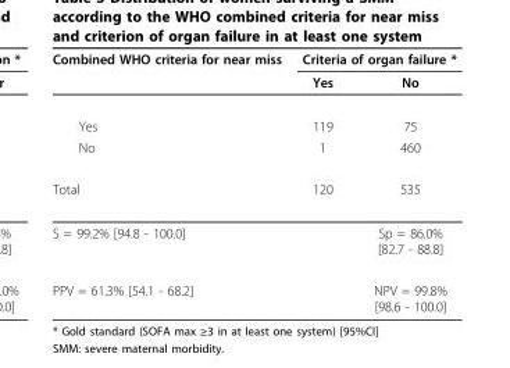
<table><thead><tr><td rowspan="2">Combined WHO criteria for near miss</td><td colspan="2">Criteria of organ failure *</td></tr><tr><td>Yes</td><td>No</td></tr></thead><tbody><tr><td>Yes</td><td>119</td><td>75</td></tr><tr><td>No</td><td>1</td><td>460</td></tr><tr><td>Total</td><td>120</td><td>535</td></tr><tr><td colspan="2">S = 99.2% [94.8 - 100.0]</td><td>Sp = 86.0% [82.7 - 88.8]</td></tr><tr><td colspan="2">PPV = 61.3% [54.1 - 68.2]</td><td>NPV = 99.8% [98.6 - 100.0]</td></tr></tbody></table>